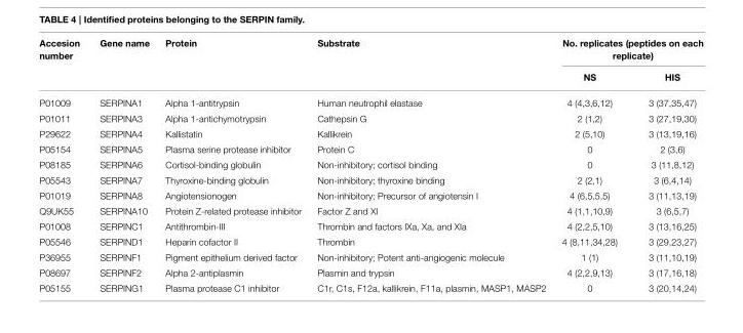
<table><thead><tr><td rowspan="2">Accesion number</td><td rowspan="2">Gene name</td><td rowspan="2">Protein</td><td rowspan="2">Substrate</td><td colspan="2">No. replicates (peptides on each replicate)</td></tr><tr><td>NS</td><td>HIS</td></tr></thead><tbody><tr><td>P01009</td><td>SERPINA1</td><td>Alpha 1-antitrypsin</td><td>Human neutrophil elastase</td><td>4 (4,3,6,12)</td><td>3 (37,35,47)</td></tr><tr><td>P01011</td><td>SERPINA3</td><td>Alpha 1-antichymotrypsin</td><td>Cathepsin G</td><td>2 (1,2)</td><td>3 (27,19,30)</td></tr><tr><td>P29622</td><td>SERPINA4</td><td>Kallistatin</td><td>Kallikrein</td><td>2 (5,10)</td><td>3 (13,19,16)</td></tr><tr><td>P05154</td><td>SERPINA5</td><td>Plasma serine protease inhibitor</td><td>Protein C</td><td>0</td><td>2 (3,6)</td></tr><tr><td>P08185</td><td>SERPINA6</td><td>Cortisol-binding globulin</td><td>Non-inhibitory; cortisol binding</td><td>0</td><td>3 (11,8,12)</td></tr><tr><td>P05543</td><td>SERPINA7</td><td>Thyroxine-binding globulin</td><td>Non-inhibitory; thyroxine binding</td><td>2 (2,1)</td><td>3 (6,4,14)</td></tr><tr><td>P01019</td><td>SERPINA8</td><td>Angiotensionogen</td><td>Non-inhibitory; Precursor of angiotensin I</td><td>4 (6,5,5,5)</td><td>3 (11,13,19)</td></tr><tr><td>Q9UK55</td><td>SERPINA10</td><td>Protein Z-related protease inhibitor</td><td>Factor Z and XI</td><td>4 (1,1,10,9)</td><td>3 (6,5,7)</td></tr><tr><td>P01008</td><td>SERPINC1</td><td>Antithrombin-III</td><td>Thrombin and factors IXa, Xa, and XIa</td><td>4 (2,2,5,10)</td><td>3 (13,16,25)</td></tr><tr><td>P05546</td><td>SERPIND1</td><td>Heparin cofactor II</td><td>Thrombin</td><td>4 (8,11,34,28)</td><td>3 (29,23,27)</td></tr><tr><td>P36955</td><td>SERPINF1</td><td>Pigment epithelium derived factor</td><td>Non-inhibitory; Potent anti-angiogenic molecule</td><td>1 (1)</td><td>3 (11,10,19)</td></tr><tr><td>P08697</td><td>SERPINF2</td><td>Alpha 2-antiplasmin</td><td>Plasmin and trypsin</td><td>4 (2,2,9,13)</td><td>3 (17,16,18)</td></tr><tr><td>P05155</td><td>SERPING1</td><td>Plasma protease C1 inhibitor</td><td>C1r, C1s, F12a, kallikrein, F11a, plasmin, MASP1, MASP2</td><td>0</td><td>3 (20,14,24)</td></tr></tbody></table>